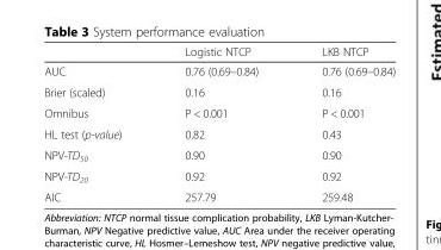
<table><thead><tr><td></td><td>Logistic NTCP</td><td>LKB NTCP</td></tr></thead><tbody><tr><td>AUC</td><td>0.76 (0.69–0.84)</td><td>0.76 (0.69–0.84)</td></tr><tr><td>Brier (scaled)</td><td>0.16</td><td>0.16</td></tr><tr><td>Omnibus</td><td>P &lt; 0.001</td><td>P &lt; 0.001</td></tr><tr><td>HL test (p-value)</td><td>0.82</td><td>0.43</td></tr><tr><td>NPV-TD<sub>50</sub></td><td>0.90</td><td>0.90</td></tr><tr><td>NPV-TD<sub>20</sub></td><td>0.92</td><td>0.92</td></tr><tr><td>AIC</td><td>257.79</td><td>259.48</td></tr></tbody></table>